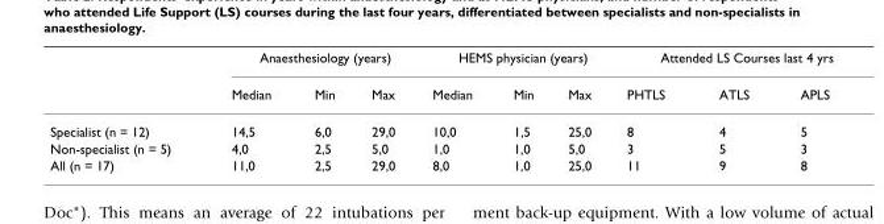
<table><thead><tr><td rowspan="2"></td><td colspan="3">Anaesthesiology (years)</td><td colspan="3">HEMS physician (years)</td><td colspan="3">Attended LS Courses last 4 yrs</td></tr><tr><td>Median</td><td>Min</td><td>Max</td><td>Median</td><td>Min</td><td>Max</td><td>PHTLS</td><td>ATLS</td><td>APLS</td></tr></thead><tbody><tr><td>Specialist (n = 12)</td><td>14,5</td><td>6,0</td><td>29,0</td><td>10,0</td><td>1,5</td><td>25,0</td><td>8</td><td>4</td><td>5</td></tr><tr><td>Non-specialist (n = 5)</td><td>4,0</td><td>2,5</td><td>5,0</td><td>1,0</td><td>1,0</td><td>5,0</td><td>3</td><td>5</td><td>3</td></tr><tr><td>All (n = 17)</td><td>11,0</td><td>2,5</td><td>29,0</td><td>8,0</td><td>1,0</td><td>25,0</td><td>11</td><td>9</td><td>8</td></tr></tbody></table>